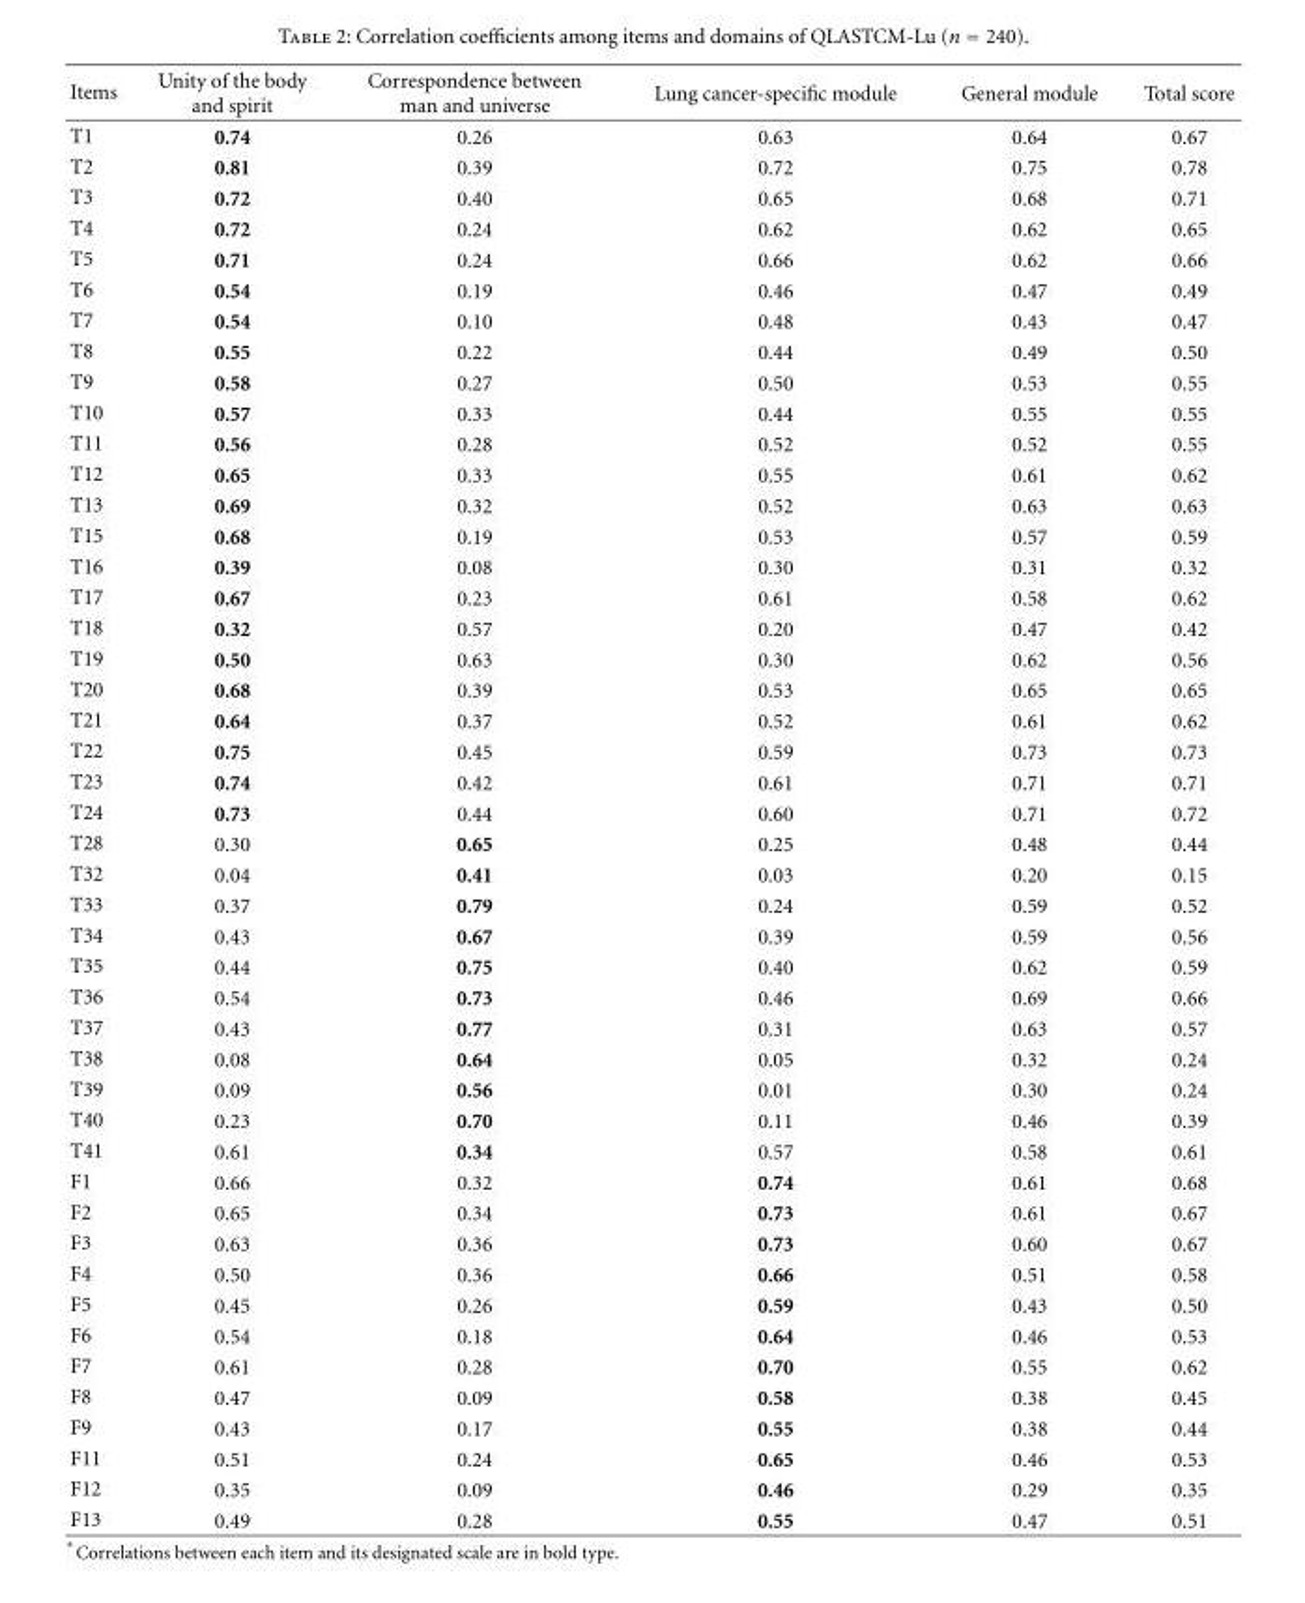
<table><thead><tr><td>Items</td><td>Unity of the body and spirit</td><td>Correspondence between man and universe</td><td>Lung cancer-specific module</td><td>General module</td><td>Total score</td></tr></thead><tbody><tr><td>T1</td><td>0.74</td><td>0.26</td><td>0.63</td><td>0.64</td><td>0.67</td></tr><tr><td>T2</td><td>0.81</td><td>0.39</td><td>0.72</td><td>0.75</td><td>0.78</td></tr><tr><td>T3</td><td>0.72</td><td>0.40</td><td>0.65</td><td>0.68</td><td>0.71</td></tr><tr><td>T4</td><td>0.72</td><td>0.24</td><td>0.62</td><td>0.62</td><td>0.65</td></tr><tr><td>T5</td><td>0.71</td><td>0.24</td><td>0.66</td><td>0.62</td><td>0.66</td></tr><tr><td>T6</td><td>0.54</td><td>0.19</td><td>0.46</td><td>0.47</td><td>0.49</td></tr><tr><td>T7</td><td>0.54</td><td>0.10</td><td>0.48</td><td>0.43</td><td>0.47</td></tr><tr><td>T8</td><td>0.55</td><td>0.22</td><td>0.44</td><td>0.49</td><td>0.50</td></tr><tr><td>T9</td><td>0.58</td><td>0.27</td><td>0.50</td><td>0.53</td><td>0.55</td></tr><tr><td>T10</td><td>0.57</td><td>0.33</td><td>0.44</td><td>0.55</td><td>0.55</td></tr><tr><td>T11</td><td>0.56</td><td>0.28</td><td>0.52</td><td>0.52</td><td>0.55</td></tr><tr><td>T12</td><td>0.65</td><td>0.33</td><td>0.55</td><td>0.61</td><td>0.62</td></tr><tr><td>T13</td><td>0.69</td><td>0.32</td><td>0.52</td><td>0.63</td><td>0.63</td></tr><tr><td>T15</td><td>0.68</td><td>0.19</td><td>0.53</td><td>0.57</td><td>0.59</td></tr><tr><td>T16</td><td>0.39</td><td>0.08</td><td>0.30</td><td>0.31</td><td>0.32</td></tr><tr><td>T17</td><td>0.67</td><td>0.23</td><td>0.61</td><td>0.58</td><td>0.62</td></tr><tr><td>T18</td><td>0.32</td><td>0.57</td><td>0.20</td><td>0.47</td><td>0.42</td></tr><tr><td>T19</td><td>0.50</td><td>0.63</td><td>0.30</td><td>0.62</td><td>0.56</td></tr><tr><td>T20</td><td>0.68</td><td>0.39</td><td>0.53</td><td>0.65</td><td>0.65</td></tr><tr><td>T21</td><td>0.64</td><td>0.37</td><td>0.52</td><td>0.61</td><td>0.62</td></tr><tr><td>T22</td><td>0.75</td><td>0.45</td><td>0.59</td><td>0.73</td><td>0.73</td></tr><tr><td>T23</td><td>0.74</td><td>0.42</td><td>0.61</td><td>0.71</td><td>0.71</td></tr><tr><td>T24</td><td>0.73</td><td>0.44</td><td>0.60</td><td>0.71</td><td>0.72</td></tr><tr><td>T28</td><td>0.30</td><td>0.65</td><td>0.25</td><td>0.48</td><td>0.44</td></tr><tr><td>T32</td><td>0.04</td><td>0.41</td><td>0.03</td><td>0.20</td><td>0.15</td></tr><tr><td>T33</td><td>0.37</td><td>0.79</td><td>0.24</td><td>0.59</td><td>0.52</td></tr><tr><td>T34</td><td>0.43</td><td>0.67</td><td>0.39</td><td>0.59</td><td>0.56</td></tr><tr><td>T35</td><td>0.44</td><td>0.75</td><td>0.40</td><td>0.62</td><td>0.59</td></tr><tr><td>T36</td><td>0.54</td><td>0.73</td><td>0.46</td><td>0.69</td><td>0.66</td></tr><tr><td>T37</td><td>0.43</td><td>0.77</td><td>0.31</td><td>0.63</td><td>0.57</td></tr><tr><td>T38</td><td>0.08</td><td>0.64</td><td>0.05</td><td>0.32</td><td>0.24</td></tr><tr><td>T39</td><td>0.09</td><td>0.56</td><td>0.01</td><td>0.30</td><td>0.24</td></tr><tr><td>T40</td><td>0.23</td><td>0.70</td><td>0.11</td><td>0.46</td><td>0.39</td></tr><tr><td>T41</td><td>0.61</td><td>0.34</td><td>0.57</td><td>0.58</td><td>0.61</td></tr><tr><td>F1</td><td>0.66</td><td>0.32</td><td>0.74</td><td>0.61</td><td>0.68</td></tr><tr><td>F2</td><td>0.65</td><td>0.34</td><td>0.73</td><td>0.61</td><td>0.67</td></tr><tr><td>F3</td><td>0.63</td><td>0.36</td><td>0.73</td><td>0.60</td><td>0.67</td></tr><tr><td>F4</td><td>0.50</td><td>0.36</td><td>0.66</td><td>0.51</td><td>0.58</td></tr><tr><td>F5</td><td>0.45</td><td>0.26</td><td>0.59</td><td>0.43</td><td>0.50</td></tr><tr><td>F6</td><td>0.54</td><td>0.18</td><td>0.64</td><td>0.46</td><td>0.53</td></tr><tr><td>F7</td><td>0.61</td><td>0.28</td><td>0.70</td><td>0.55</td><td>0.62</td></tr><tr><td>F8</td><td>0.47</td><td>0.09</td><td>0.58</td><td>0.38</td><td>0.45</td></tr><tr><td>F9</td><td>0.43</td><td>0.17</td><td>0.55</td><td>0.38</td><td>0.44</td></tr><tr><td>F11</td><td>0.51</td><td>0.24</td><td>0.65</td><td>0.46</td><td>0.53</td></tr><tr><td>F12</td><td>0.35</td><td>0.09</td><td>0.46</td><td>0.29</td><td>0.35</td></tr><tr><td>F13</td><td>0.49</td><td>0.28</td><td>0.55</td><td>0.47</td><td>0.51</td></tr></tbody></table>